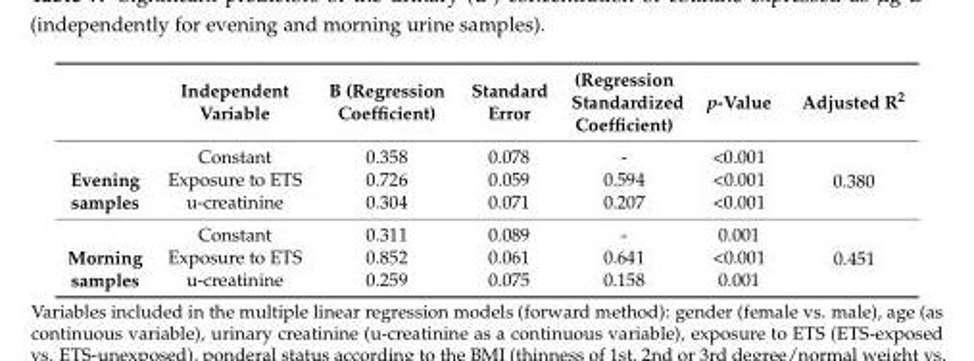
<table><thead><tr><td></td><td>Independent Variable</td><td>B (Regression Coefficient)</td><td>Standard Error</td><td>(Regression Standardized Coefficient)</td><td>p-Value</td><td>Adjusted R<sup>2</sup></td></tr></thead><tbody><tr><td rowspan="3">Evening samples</td><td>Constant</td><td>0.358</td><td>0.078</td><td>-</td><td>&lt;0.001</td><td rowspan="3">0.380</td></tr><tr><td>Exposure to ETS</td><td>0.726</td><td>0.059</td><td>0.594</td><td>&lt;0.001</td></tr><tr><td>u-creatinine</td><td>0.304</td><td>0.071</td><td>0.207</td><td>&lt;0.001</td></tr><tr><td rowspan="3">Morning samples</td><td>Constant</td><td>0.311</td><td>0.089</td><td>-</td><td>0.001</td><td rowspan="3">0.451</td></tr><tr><td>Exposure to ETS</td><td>0.852</td><td>0.061</td><td>0.641</td><td>&lt;0.001</td></tr><tr><td>u-creatinine</td><td>0.259</td><td>0.075</td><td>0.158</td><td>0.001</td></tr></tbody></table>